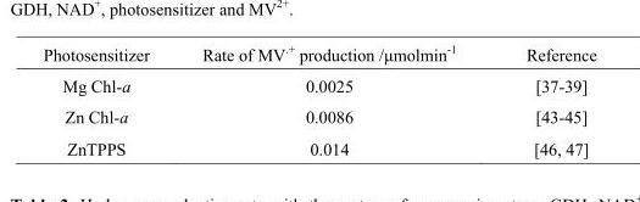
<table><thead><tr><td>Photosensitizer</td><td>Rate of MV<sup>.+</sup> production /μmolmin<sup>-1</sup></td><td>Reference</td></tr></thead><tbody><tr><td>Mg Chl-a</td><td>0.0025</td><td>[37-39]</td></tr><tr><td>Zn Chl-a</td><td>0.0086</td><td>[43-45]</td></tr><tr><td>ZnTPPS</td><td>0.014</td><td>[46, 47]</td></tr></tbody></table>